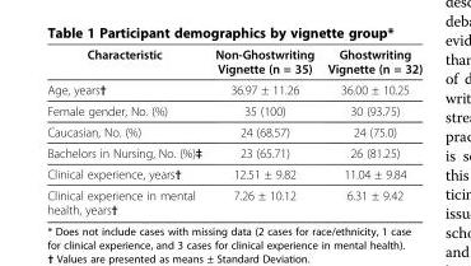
<table><thead><tr><td>Characteristic</td><td>Non-Ghostwriting Vignette (n = 35)</td><td>Ghostwriting Vignette (n = 32)</td></tr></thead><tbody><tr><td>Age, years†</td><td>36.97 ± 11.26</td><td>36.00 ± 10.25</td></tr><tr><td>Female gender, No. (%)</td><td>35 (100)</td><td>30 (93.75)</td></tr><tr><td>Caucasian, No. (%)</td><td>24 (68.57)</td><td>24 (75.0)</td></tr><tr><td>Bachelors in Nursing, No. (%)‡</td><td>23 (65.71)</td><td>26 (81.25)</td></tr><tr><td>Clinical experience, years†</td><td>12.51 ± 9.82</td><td>11.04 ± 9.84</td></tr><tr><td>Clinical experience in mental health, years†</td><td>7.26 ± 10.12</td><td>6.31 ± 9.42</td></tr></tbody></table>